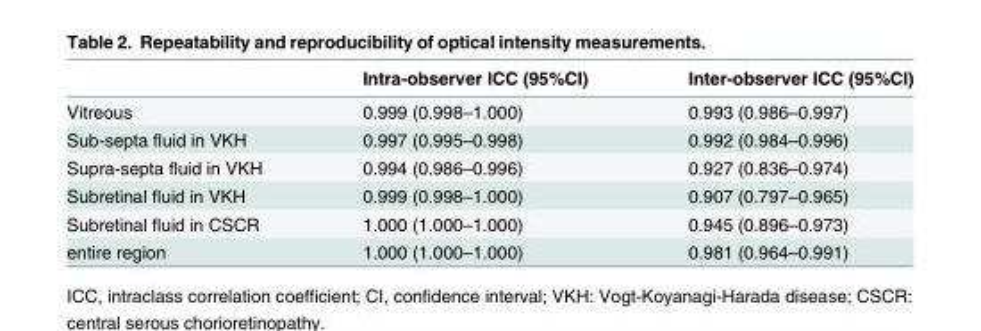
<table><thead><tr><td></td><td>Intra-observer ICC (95%CI)</td><td>Inter-observer ICC (95%CI)</td></tr></thead><tbody><tr><td>Vitreous</td><td>0.999 (0.998–1.000)</td><td>0.993 (0.986–0.997)</td></tr><tr><td>Sub-septa fluid in VKH</td><td>0.997 (0.995–0.998)</td><td>0.992 (0.984–0.996)</td></tr><tr><td>Supra-septa fluid in VKH</td><td>0.994 (0.986–0.996)</td><td>0.927 (0.836–0.974)</td></tr><tr><td>Subretinal fluid in VKH</td><td>0.999 (0.998–1.000)</td><td>0.907 (0.797–0.965)</td></tr><tr><td>Subretinal fluid in CSCR</td><td>1.000 (1.000–1.000)</td><td>0.945 (0.896–0.973)</td></tr><tr><td>entire region</td><td>1.000 (1.000–1.000)</td><td>0.981 (0.964–0.991)</td></tr></tbody></table>